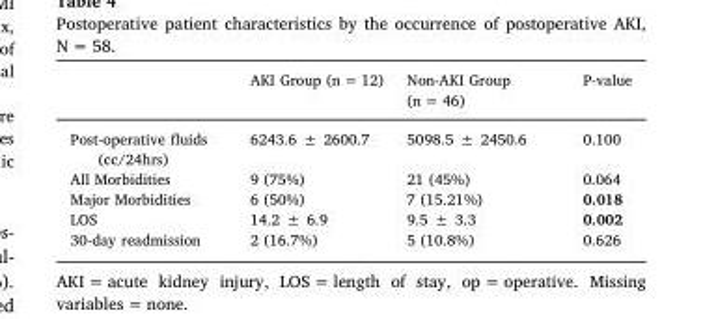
<table><thead><tr><td></td><td>AKI Group (n = 12)</td><td>Non-AKI Group (n = 46)</td><td>P-value</td></tr></thead><tbody><tr><td>Post-operative fluids (cc/24hrs)</td><td>6243.6 ± 2600.7</td><td>5098.5 ± 2450.6</td><td>0.100</td></tr><tr><td>All Morbidities</td><td>9 (75%)</td><td>21 (45%)</td><td>0.064</td></tr><tr><td>Major Morbidities</td><td>6 (50%)</td><td>7 (15.21%)</td><td>0.018</td></tr><tr><td>LOS</td><td>14.2 ± 6.9</td><td>9.5 ± 3.3</td><td>0.002</td></tr><tr><td>30-day readmission</td><td>2 (16.7%)</td><td>5 (10.8%)</td><td>0.626</td></tr></tbody></table>